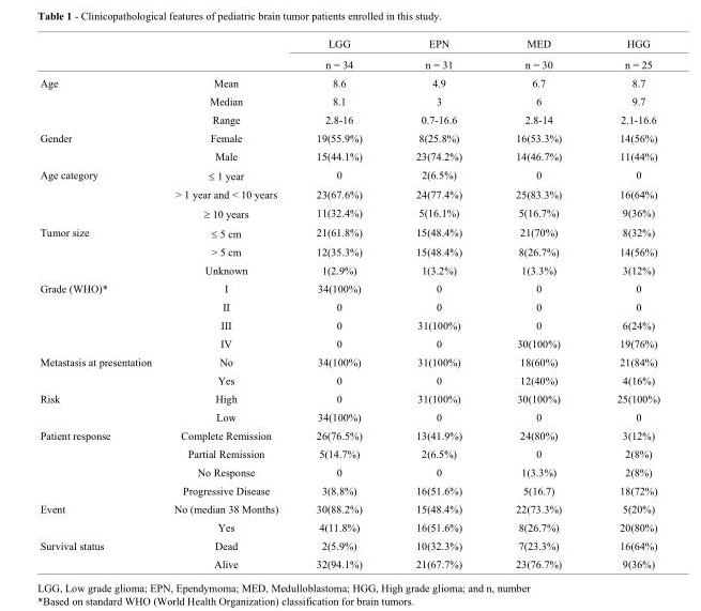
<table><thead><tr><td rowspan="2"></td><td rowspan="2"></td><td rowspan="2">LGG n = 34</td><td rowspan="2">EPN n = 31</td><td rowspan="2">MED n = 30</td><td rowspan="2">HGG n = 25</td></tr><tr></tr></thead><tbody><tr><td rowspan="3">Age</td><td>Mean</td><td>8.6</td><td>4.9</td><td>6.7</td><td>8.7</td></tr><tr><td>Median</td><td>8.1</td><td>3</td><td>6</td><td>9.7</td></tr><tr><td>Range</td><td>2.8-16</td><td>0.7-16.6</td><td>2.8-14</td><td>2.1-16.6</td></tr><tr><td rowspan="2">Gender</td><td>Female</td><td>19(55.9%)</td><td>8(25.8%)</td><td>16(53.3%)</td><td>14(56%)</td></tr><tr><td>Male</td><td>15(44.1%)</td><td>23(74.2%)</td><td>14(46.7%)</td><td>11(44%)</td></tr><tr><td rowspan="3">Age category</td><td>≤ 1 year</td><td>0</td><td>2(6.5%)</td><td>0</td><td>0</td></tr><tr><td>&gt; 1 year and &lt; 10 years</td><td>23(67.6%)</td><td>24(77.4%)</td><td>25(83.3%)</td><td>16(64%)</td></tr><tr><td>≥ 10 years</td><td>11(32.4%)</td><td>5(16.1%)</td><td>5(16.7%)</td><td>9(36%)</td></tr><tr><td rowspan="3">Tumor size</td><td>≤ 5 cm</td><td>21(61.8%)</td><td>15(48.4%)</td><td>21(70%)</td><td>8(32%)</td></tr><tr><td>&gt; 5 cm</td><td>12(35.3%)</td><td>15(48.4%)</td><td>8(26.7%)</td><td>14(56%)</td></tr><tr><td>Unknown</td><td>1(2.9%)</td><td>1(3.2%)</td><td>1(3.3%)</td><td>3(12%)</td></tr><tr><td rowspan="4">Grade (WHO)*</td><td>I</td><td>34(100%)</td><td>0</td><td>0</td><td>0</td></tr><tr><td>II</td><td>0</td><td>0</td><td>0</td><td>0</td></tr><tr><td>III</td><td>0</td><td>31(100%)</td><td>0</td><td>6(24%)</td></tr><tr><td>IV</td><td>0</td><td>0</td><td>30(100%)</td><td>19(76%)</td></tr><tr><td rowspan="2">Metastasis at presentation</td><td>No</td><td>34(100%)</td><td>31(100%)</td><td>18(60%)</td><td>21(84%)</td></tr><tr><td>Yes</td><td>0</td><td>0</td><td>12(40%)</td><td>4(16%)</td></tr><tr><td rowspan="2">Risk</td><td>High</td><td>0</td><td>31(100%)</td><td>30(100%)</td><td>25(100%)</td></tr><tr><td>Low</td><td>34(100%)</td><td>0</td><td>0</td><td>0</td></tr><tr><td rowspan="4">Patient response</td><td>Complete Remission</td><td>26(76.5%)</td><td>13(41.9%)</td><td>24(80%)</td><td>3(12%)</td></tr><tr><td>Partial Remission</td><td>5(14.7%)</td><td>2(6.5%)</td><td>0</td><td>2(8%)</td></tr><tr><td>No Response</td><td>0</td><td>0</td><td>1(3.3%)</td><td>2(8%)</td></tr><tr><td>Progressive Disease</td><td>3(8.8%)</td><td>16(51.6%)</td><td>5(16.7)</td><td>18(72%)</td></tr><tr><td rowspan="2">Event</td><td>No (median 38 Months)</td><td>30(88.2%)</td><td>15(48.4%)</td><td>22(73.3%)</td><td>5(20%)</td></tr><tr><td>Yes</td><td>4(11.8%)</td><td>16(51.6%)</td><td>8(26.7%)</td><td>20(80%)</td></tr><tr><td rowspan="2">Survival status</td><td>Dead</td><td>2(5.9%)</td><td>10(32.3%)</td><td>7(23.3%)</td><td>16(64%)</td></tr><tr><td>Alive</td><td>32(94.1%)</td><td>21(67.7%)</td><td>23(76.7%)</td><td>9(36%)</td></tr></tbody></table>